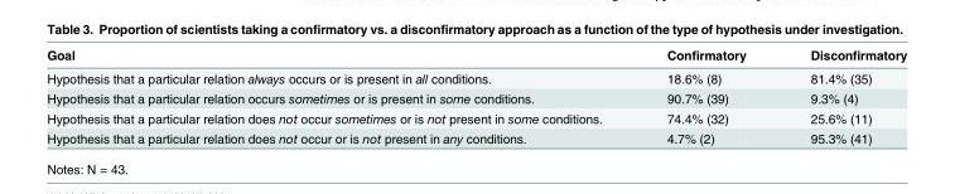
<table><thead><tr><td>Goal</td><td>Confirmatory</td><td>Disconfirmatory</td></tr></thead><tbody><tr><td>Hypothesis that a particular relation always occurs or is present in all conditions.</td><td>18.6% (8)</td><td>81.4% (35)</td></tr><tr><td>Hypothesis that a particular relation occurs sometimes or is present in some conditions.</td><td>90.7% (39)</td><td>9.3% (4)</td></tr><tr><td>Hypothesis that a particular relation does not occur sometimes or is not present in some conditions.</td><td>74.4% (32)</td><td>25.6% (11)</td></tr><tr><td>Hypothesis that a particular relation does not occur or is not present in any conditions.</td><td>4.7% (2)</td><td>95.3% (41)</td></tr></tbody></table>